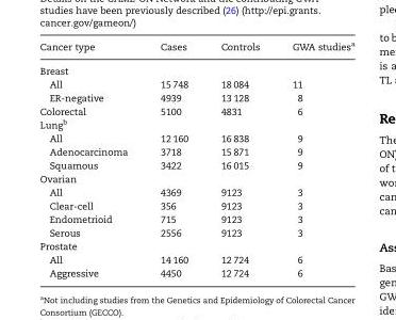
<table><thead><tr><td>Cancer type</td><td>Cases</td><td>Controls</td><td>GWA studies<sup>a</sup></td></tr></thead><tbody><tr><td colspan="4">Breast</td></tr><tr><td>All</td><td>15 748</td><td>18 084</td><td>11</td></tr><tr><td>ER-negative</td><td>4939</td><td>13 128</td><td>8</td></tr><tr><td>Colorectal</td><td>5100</td><td>4831</td><td>6</td></tr><tr><td colspan="4">Lung<sup>b</sup></td></tr><tr><td>All</td><td>12 160</td><td>16 838</td><td>9</td></tr><tr><td>Adenocarcinoma</td><td>3718</td><td>15 871</td><td>9</td></tr><tr><td>Squamous</td><td>3422</td><td>16 015</td><td>9</td></tr><tr><td colspan="4">Ovarian</td></tr><tr><td>All</td><td>4369</td><td>9123</td><td>3</td></tr><tr><td>Clear-cell</td><td>356</td><td>9123</td><td>3</td></tr><tr><td>Endometrioid</td><td>715</td><td>9123</td><td>3</td></tr><tr><td>Serous</td><td>2556</td><td>9123</td><td>3</td></tr><tr><td colspan="4">Prostate</td></tr><tr><td>All</td><td>14 160</td><td>12 724</td><td>6</td></tr><tr><td>Aggressive</td><td>4450</td><td>12 724</td><td>6</td></tr></tbody></table>